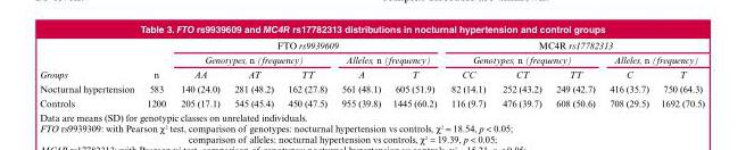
<table><thead><tr><td rowspan="3">Groups</td><td rowspan="3">n</td><td colspan="5">FTO rs9939609</td><td colspan="5">MC4R rs17782313</td></tr><tr><td colspan="3">Genotypes, n (frequency)</td><td colspan="2">Alleles, n (frequency)</td><td colspan="3">Genotypes, n (frequency)</td><td colspan="2">Alleles, n (frequency)</td></tr><tr><td>AA</td><td>AT</td><td>TT</td><td>A</td><td>T</td><td>CC</td><td>CT</td><td>TT</td><td>C</td><td>T</td></tr></thead><tbody><tr><td>Nocturnal hypertension</td><td>583</td><td>140 (24.0)</td><td>281 (48.2)</td><td>162 (27.8)</td><td>561 (48.1)</td><td>605 (51.9)</td><td>82 (14.1)</td><td>252 (43.2)</td><td>249 (42.7)</td><td>416 (35.7)</td><td>750 (64.3)</td></tr><tr><td>Controls</td><td>1200</td><td>205 (17.1)</td><td>545 (45.4)</td><td>450 (47.5)</td><td>955 (39.8)</td><td>1445 (60.2)</td><td>116 (9.7)</td><td>476 (39.7)</td><td>608 (50.6)</td><td>708 (29.5)</td><td>1692 (70.5)</td></tr></tbody></table>